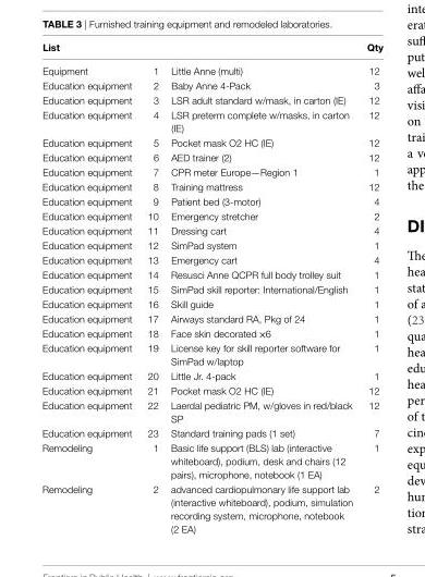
<table><thead><tr><td>list</td><td></td><td></td><td>Qty</td></tr></thead><tbody><tr><td>Equipment</td><td>1</td><td>Little Anne (multi)</td><td>12</td></tr><tr><td>Education equipment</td><td>2</td><td>Baby Anne 4-Pack</td><td>3</td></tr><tr><td>Education equipment</td><td>3</td><td>LSR adult standard w/mask, in carton (IE)</td><td>12</td></tr><tr><td>Education equipment</td><td>4</td><td>LSR preterm complete w/masks, in carton (IE)</td><td>12</td></tr><tr><td>Education equipment</td><td>5</td><td>Pocket mask O2 HC (IE)</td><td>12</td></tr><tr><td>Education equipment</td><td>6</td><td>AED trainer (2)</td><td>12</td></tr><tr><td>Education equipment</td><td>7</td><td>CPR meter Europe—Region 1</td><td>1</td></tr><tr><td>Education equipment</td><td>8</td><td>Training mattress</td><td>12</td></tr><tr><td>Education equipment</td><td>9</td><td>Patient bed (3-motor)</td><td>4</td></tr><tr><td>Education equipment</td><td>10</td><td>Emergency stretcher</td><td>2</td></tr><tr><td>Education equipment</td><td>11</td><td>Dressing cart</td><td>4</td></tr><tr><td>Education equipment</td><td>12</td><td>SimPad system</td><td>1</td></tr><tr><td>Education equipment</td><td>13</td><td>Emergency cart</td><td>4</td></tr><tr><td>Education equipment</td><td>14</td><td>Resusci Anne QCPR full body trolley suit</td><td>1</td></tr><tr><td>Education equipment</td><td>15</td><td>SimPad skill reporter: International/English</td><td>1</td></tr><tr><td>Education equipment</td><td>16</td><td>Skill guide</td><td>1</td></tr><tr><td>Education equipment</td><td>17</td><td>Airways standard RA, Pkg of 24</td><td>1</td></tr><tr><td>Education equipment</td><td>18</td><td>Face skin decorated ×6</td><td>1</td></tr><tr><td>Education equipment</td><td>19</td><td>License key for skill reporter software for SimPad w/laptop</td><td>1</td></tr><tr><td>Education equipment</td><td>20</td><td>Little Jr. 4-pack</td><td>1</td></tr><tr><td>Education equipment</td><td>21</td><td>Pocket mask O2 HC (IE)</td><td>12</td></tr><tr><td>Education equipment</td><td>22</td><td>Laerdal pediatric PM, w/gloves in red/black SP</td><td>12</td></tr><tr><td>Education equipment</td><td>23</td><td>Standard training pads (1 set)</td><td>7</td></tr><tr><td>Remodeling</td><td>1</td><td>Basic life support (BLS) lab (interactive whiteboard), podium, desk and chairs (12 pairs), microphone, notebook (1 EA)</td><td>1</td></tr><tr><td>Remodeling</td><td>2</td><td>advanced cardiopulmonary life support lab (interactive whiteboard), podium, simulation recording system, microphone, notebook (2 EA)</td><td>2</td></tr></tbody></table>